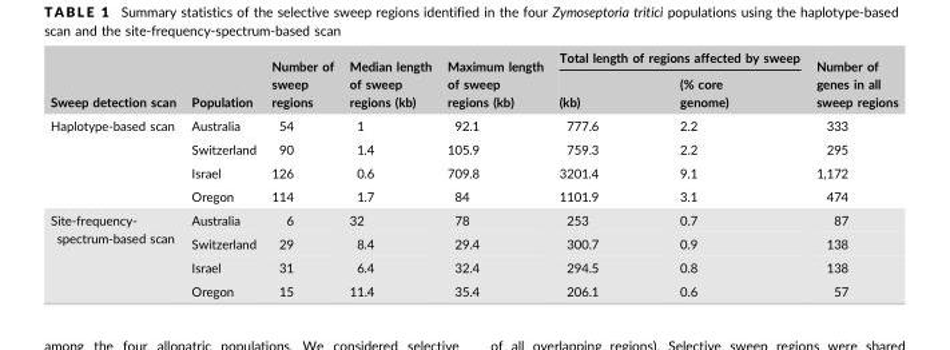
<table><thead><tr><td rowspan="2">Sweep detection scan</td><td rowspan="2">Population</td><td rowspan="2">Number of sweep regions</td><td rowspan="2">Median length of sweep regions (kb)</td><td rowspan="2">Maximum length of sweep regions (kb)</td><td colspan="2">Total length of regions affected by sweep</td><td rowspan="2">Number of genes in all sweep regions</td></tr><tr><td>(kb)</td><td>(% core genome)</td></tr></thead><tbody><tr><td rowspan="4">Haplotype-based scan</td><td>Australia</td><td>54</td><td>1</td><td>92.1</td><td>777.6</td><td>2.2</td><td>333</td></tr><tr><td>Switzerland</td><td>90</td><td>1.4</td><td>105.9</td><td>759.3</td><td>2.2</td><td>295</td></tr><tr><td>Israel</td><td>126</td><td>0.6</td><td>709.8</td><td>3201.4</td><td>9.1</td><td>1,172</td></tr><tr><td>Oregon</td><td>114</td><td>1.7</td><td>84</td><td>1101.9</td><td>3.1</td><td>474</td></tr><tr><td rowspan="4">Site-frequency- spectrum-based scan</td><td>Australia</td><td>6</td><td>32</td><td>78</td><td>253</td><td>0.7</td><td>87</td></tr><tr><td>Switzerland</td><td>29</td><td>8.4</td><td>29.4</td><td>300.7</td><td>0.9</td><td>138</td></tr><tr><td>Israel</td><td>31</td><td>6.4</td><td>32.4</td><td>294.5</td><td>0.8</td><td>138</td></tr><tr><td>Oregon</td><td>15</td><td>11.4</td><td>35.4</td><td>206.1</td><td>0.6</td><td>57</td></tr></tbody></table>